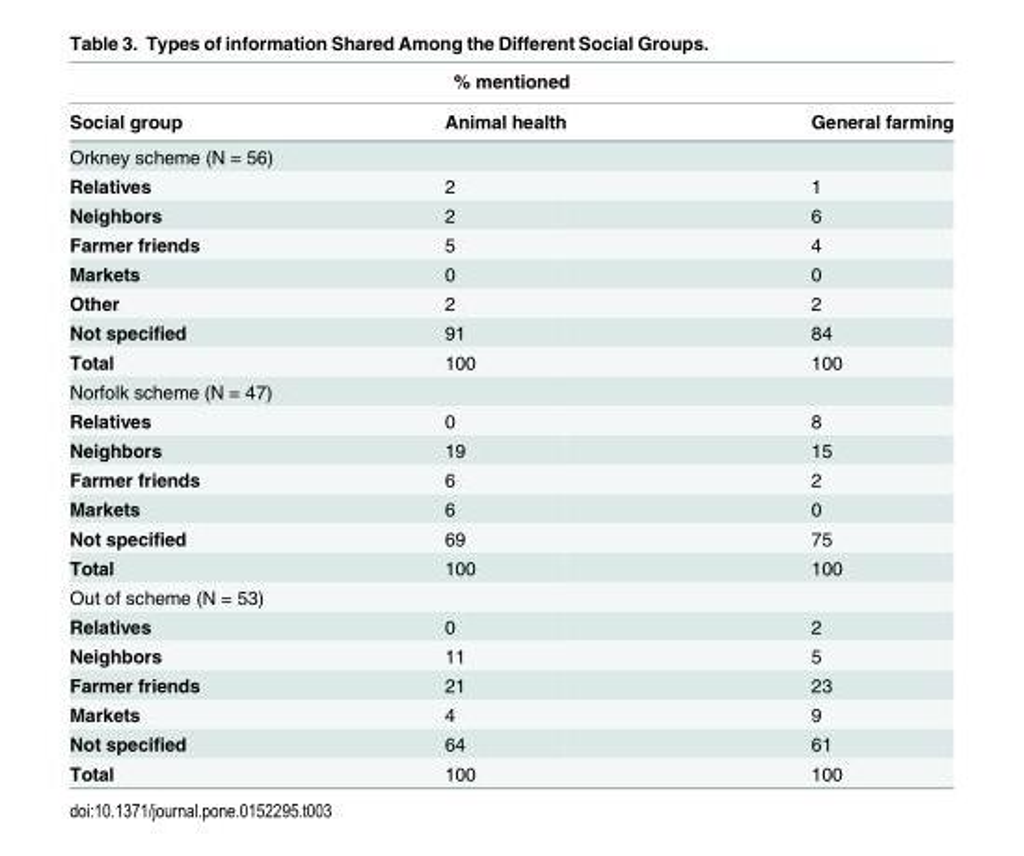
<table><thead><tr><td colspan="3">% mentioned</td></tr><tr><td>Social group</td><td>Animal health</td><td>General farming</td></tr></thead><tbody><tr><td colspan="3">Orkney scheme (N = 56)</td></tr><tr><td>Relatives</td><td>2</td><td>1</td></tr><tr><td>Neighbors</td><td>2</td><td>6</td></tr><tr><td>Farmer friends</td><td>5</td><td>4</td></tr><tr><td>Markets</td><td>0</td><td>0</td></tr><tr><td>Other</td><td>2</td><td>2</td></tr><tr><td>Not specified</td><td>91</td><td>84</td></tr><tr><td>Total</td><td>100</td><td>100</td></tr><tr><td colspan="3">Norfolk scheme (N = 47)</td></tr><tr><td>Relatives</td><td>0</td><td>8</td></tr><tr><td>Neighbors</td><td>19</td><td>15</td></tr><tr><td>Farmer friends</td><td>6</td><td>2</td></tr><tr><td>Markets</td><td>6</td><td>0</td></tr><tr><td>Not specified</td><td>69</td><td>75</td></tr><tr><td>Total</td><td>100</td><td>100</td></tr><tr><td colspan="3">Out of scheme (N = 53)</td></tr><tr><td>Relatives</td><td>0</td><td>2</td></tr><tr><td>Neighbors</td><td>11</td><td>5</td></tr><tr><td>Farmer friends</td><td>21</td><td>23</td></tr><tr><td>Markets</td><td>4</td><td>9</td></tr><tr><td>Not specified</td><td>64</td><td>61</td></tr><tr><td>Total</td><td>100</td><td>100</td></tr></tbody></table>